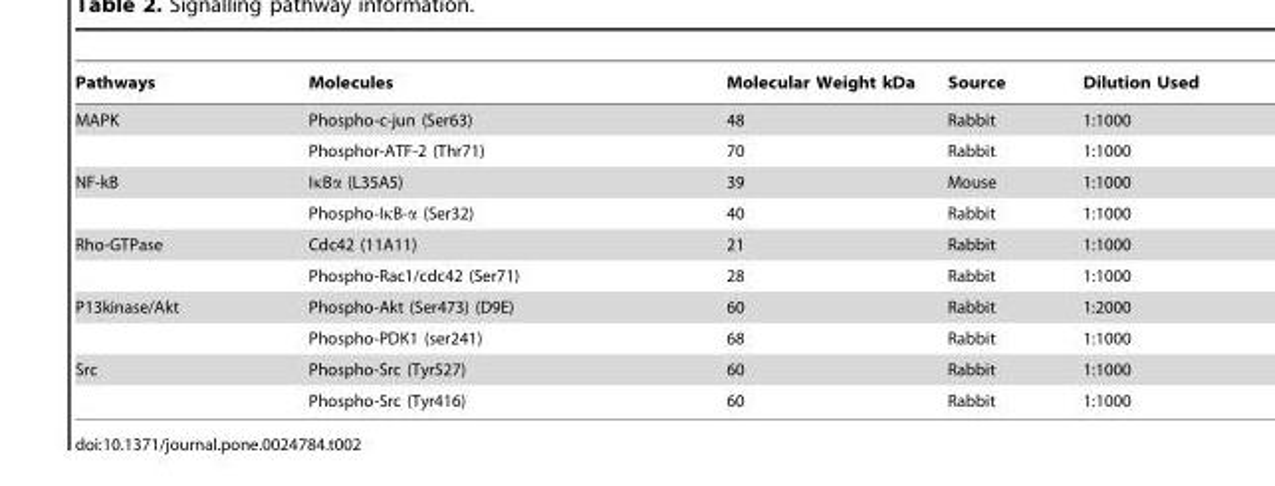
<table><thead><tr><td>Pathways</td><td>Molecules</td><td>Molecular Weight kDa</td><td>Source</td><td>Dilution Used</td></tr></thead><tbody><tr><td rowspan="2">MAPK</td><td>Phospho-c-jun (Ser63)</td><td>48</td><td>Rabbit</td><td>1:1000</td></tr><tr><td>Phosphor-ATF-2 (Thr71)</td><td>70</td><td>Rabbit</td><td>1:1000</td></tr><tr><td rowspan="2">NF-kB</td><td>IκBα (L35A5)</td><td>39</td><td>Mouse</td><td>1:1000</td></tr><tr><td>Phospho-IκB-α (Ser32)</td><td>40</td><td>Rabbit</td><td>1:1000</td></tr><tr><td rowspan="2">Rho-GTPase</td><td>Cdc42 (11A11)</td><td>21</td><td>Rabbit</td><td>1:1000</td></tr><tr><td>Phospho-Rac1/cdc42 (Ser71)</td><td>28</td><td>Rabbit</td><td>1:1000</td></tr><tr><td rowspan="2">P13kinase/Akt</td><td>Phospho-Akt (Ser473) (D9E)</td><td>60</td><td>Rabbit</td><td>1:2000</td></tr><tr><td>Phospho-PDK1 (ser241)</td><td>68</td><td>Rabbit</td><td>1:1000</td></tr><tr><td rowspan="2">Src</td><td>Phospho-Src (Tyr527)</td><td>60</td><td>Rabbit</td><td>1:1000</td></tr><tr><td>Phospho-Src (Tyr416)</td><td>60</td><td>Rabbit</td><td>1:1000</td></tr></tbody></table>